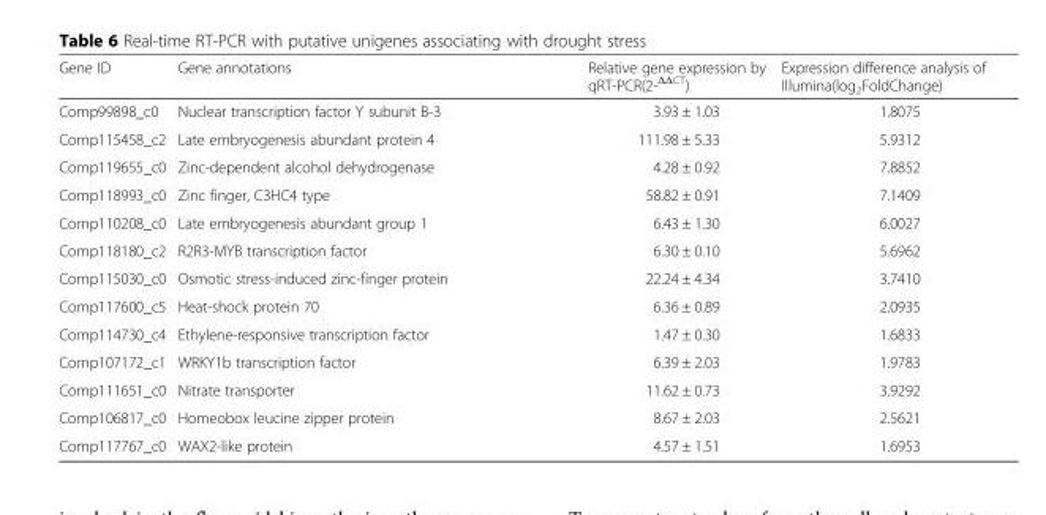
<table><thead><tr><td>Gene ID</td><td>Gene annotations</td><td>Relative gene expression by qRT-PCR(2-<sup>ΔΔCT</sup>)</td><td>Expression difference analysis of Illumina(log<sub>2</sub>FoldChange)</td></tr></thead><tbody><tr><td>Comp99898_c0</td><td>Nuclear transcription factor Y subunit B-3</td><td>3.93 ± 1.03</td><td>1.8075</td></tr><tr><td>Comp115458_c2</td><td>Late embryogenesis abundant protein 4</td><td>111.98 ± 5.33</td><td>5.9312</td></tr><tr><td>Comp119655_c0</td><td>Zinc-dependent alcohol dehydrogenase</td><td>4.28 ± 0.92</td><td>7.8852</td></tr><tr><td>Comp118993_c0</td><td>Zinc finger, C3HC4 type</td><td>58.82 ± 0.91</td><td>7.1409</td></tr><tr><td>Comp110208_c0</td><td>Late embryogenesis abundant group 1</td><td>6.43 ± 1.30</td><td>6.0027</td></tr><tr><td>Comp118180_c2</td><td>R2R3-MYB transcription factor</td><td>6.30 ± 0.10</td><td>5.6962</td></tr><tr><td>Comp115030_c0</td><td>Osmotic stress-induced zinc-finger protein</td><td>22.24 ± 4.34</td><td>3.7410</td></tr><tr><td>Comp117600_c5</td><td>Heat-shock protein 70</td><td>6.36 ± 0.89</td><td>2.0935</td></tr><tr><td>Comp114730_c4</td><td>Ethylene-responsive transcription factor</td><td>1.47 ± 0.30</td><td>1.6833</td></tr><tr><td>Comp107172_c1</td><td>WRKY1b transcription factor</td><td>6.39 ± 2.03</td><td>1.9783</td></tr><tr><td>Comp111651_c0</td><td>Nitrate transporter</td><td>11.62 ± 0.73</td><td>3.9292</td></tr><tr><td>Comp106817_c0</td><td>Homeobox leucine zipper protein</td><td>8.67 ± 2.03</td><td>2.5621</td></tr><tr><td>Comp117767_c0</td><td>WAX2-like protein</td><td>4.57 ± 1.51</td><td>1.6953</td></tr></tbody></table>